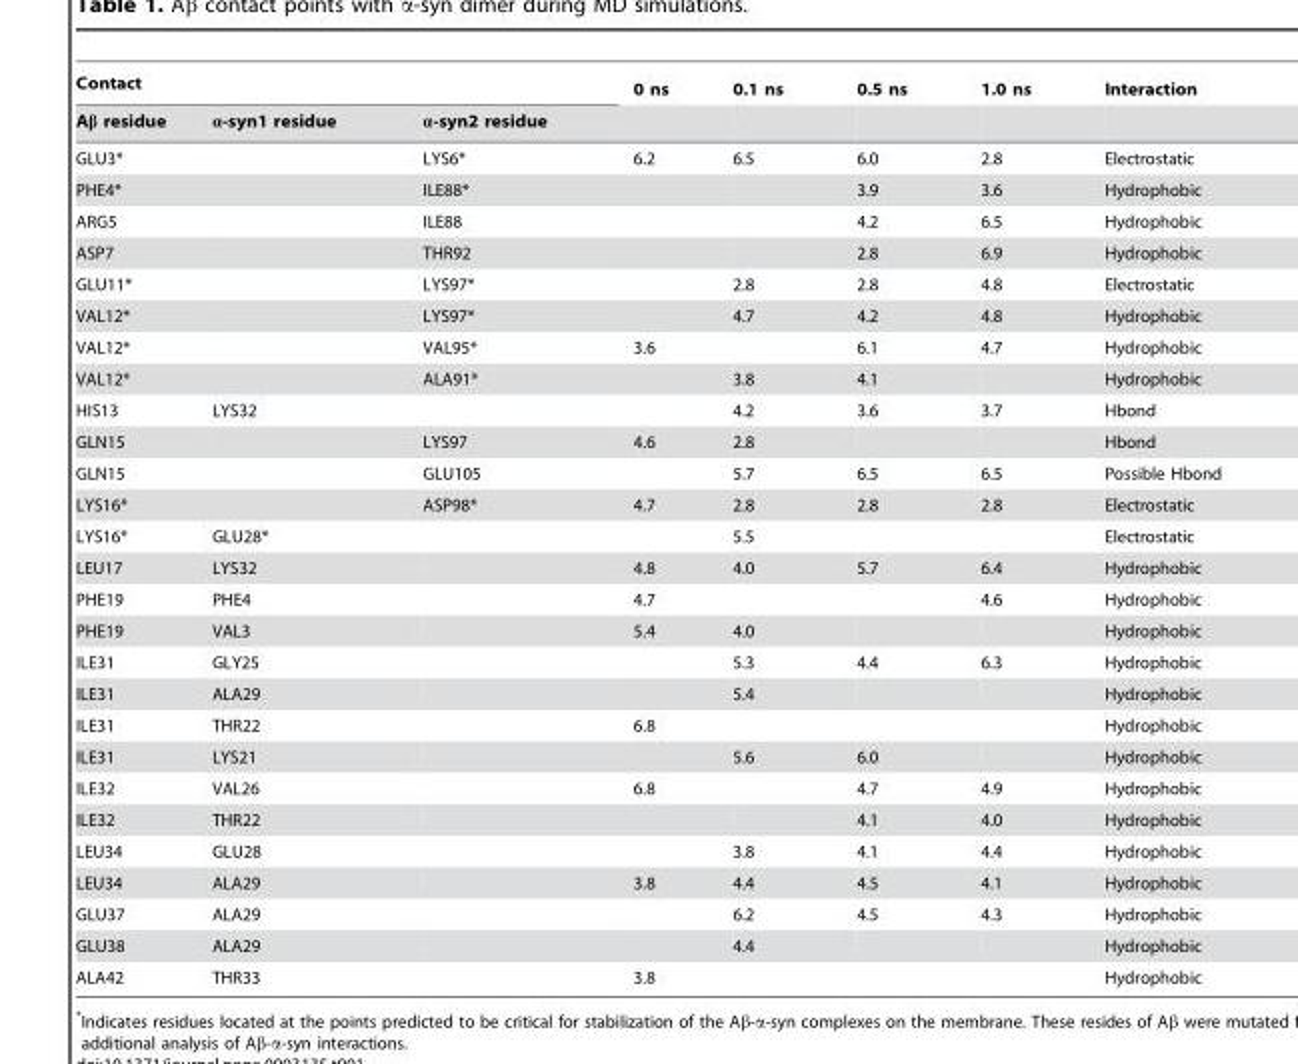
<table><thead><tr><td colspan="3">Contact</td><td rowspan="2">0 ns</td><td rowspan="2">0.1 ns</td><td rowspan="2">0.5 ns</td><td rowspan="2">1.0 ns</td><td rowspan="2">Interaction</td></tr><tr><td>Aβ residue</td><td>α-syn1 residue</td><td>α-syn2 residue</td></tr></thead><tbody><tr><td>GLU3*</td><td></td><td>LYS6*</td><td>6.2</td><td>6.5</td><td>6.0</td><td>2.8</td><td>Electrostatic</td></tr><tr><td>PHE4*</td><td></td><td>ILE88*</td><td></td><td></td><td>3.9</td><td>3.6</td><td>Hydrophobic</td></tr><tr><td>ARG5</td><td></td><td>ILE88</td><td></td><td></td><td>4.2</td><td>6.5</td><td>Hydrophobic</td></tr><tr><td>ASP7</td><td></td><td>THR92</td><td></td><td></td><td>2.8</td><td>6.9</td><td>Hydrophobic</td></tr><tr><td>GLU11*</td><td></td><td>LYS97*</td><td></td><td>2.8</td><td>2.8</td><td>4.8</td><td>Electrostatic</td></tr><tr><td>VAL12*</td><td></td><td>LYS97*</td><td></td><td>4.7</td><td>4.2</td><td>4.8</td><td>Hydrophobic</td></tr><tr><td>VAL12*</td><td></td><td>VAL95*</td><td>3.6</td><td></td><td>6.1</td><td>4.7</td><td>Hydrophobic</td></tr><tr><td>VAL12*</td><td></td><td>ALA91*</td><td></td><td>3.8</td><td>4.1</td><td></td><td>Hydrophobic</td></tr><tr><td>HIS13</td><td>LYS32</td><td></td><td></td><td>4.2</td><td>3.6</td><td>3.7</td><td>Hbond</td></tr><tr><td>GLN15</td><td></td><td>LYS97</td><td>4.6</td><td>2.8</td><td></td><td></td><td>Hbond</td></tr><tr><td>GLN15</td><td></td><td>GLU105</td><td></td><td>5.7</td><td>6.5</td><td>6.5</td><td>Possible Hbond</td></tr><tr><td>LYS16*</td><td></td><td>ASP98*</td><td>4.7</td><td>2.8</td><td>2.8</td><td>2.8</td><td>Electrostatic</td></tr><tr><td>LYS16*</td><td>GLU28*</td><td></td><td></td><td>5.5</td><td></td><td></td><td>Electrostatic</td></tr><tr><td>LEU17</td><td>LYS32</td><td></td><td>4.8</td><td>4.0</td><td>5.7</td><td>6.4</td><td>Hydrophobic</td></tr><tr><td>PHE19</td><td>PHE4</td><td></td><td>4.7</td><td></td><td></td><td>4.6</td><td>Hydrophobic</td></tr><tr><td>PHE19</td><td>VAL3</td><td></td><td>5.4</td><td>4.0</td><td></td><td></td><td>Hydrophobic</td></tr><tr><td>ILE31</td><td>GLY25</td><td></td><td></td><td>5.3</td><td>4.4</td><td>6.3</td><td>Hydrophobic</td></tr><tr><td>ILE31</td><td>ALA29</td><td></td><td></td><td>5.4</td><td></td><td></td><td>Hydrophobic</td></tr><tr><td>ILE31</td><td>THR22</td><td></td><td>6.8</td><td></td><td></td><td></td><td>Hydrophobic</td></tr><tr><td>ILE31</td><td>LYS21</td><td></td><td></td><td>5.6</td><td>6.0</td><td></td><td>Hydrophobic</td></tr><tr><td>ILE32</td><td>VAL26</td><td></td><td>6.8</td><td></td><td>4.7</td><td>4.9</td><td>Hydrophobic</td></tr><tr><td>ILE32</td><td>THR22</td><td></td><td></td><td></td><td>4.1</td><td>4.0</td><td>Hydrophobic</td></tr><tr><td>LEU34</td><td>GLU28</td><td></td><td></td><td>3.8</td><td>4.1</td><td>4.4</td><td>Hydrophobic</td></tr><tr><td>LEU34</td><td>ALA29</td><td></td><td>3.8</td><td>4.4</td><td>4.5</td><td>4.1</td><td>Hydrophobic</td></tr><tr><td>GLU37</td><td>ALA29</td><td></td><td></td><td>6.2</td><td>4.5</td><td>4.3</td><td>Hydrophobic</td></tr><tr><td>GLU38</td><td>ALA29</td><td></td><td></td><td>4.4</td><td></td><td></td><td>Hydrophobic</td></tr><tr><td>ALA42</td><td>THR33</td><td></td><td>3.8</td><td></td><td></td><td></td><td>Hydrophobic</td></tr></tbody></table>